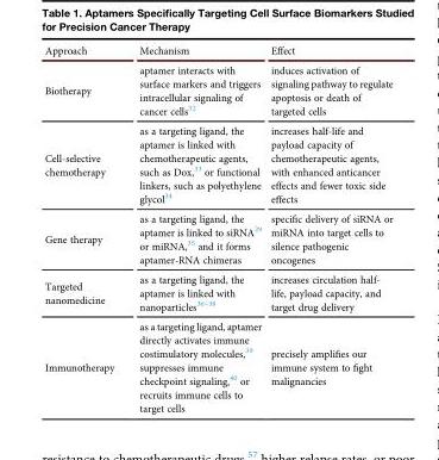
<table><thead><tr><td>Approach</td><td>Mechanism</td><td>Effect</td></tr></thead><tbody><tr><td>Biotherapy</td><td>aptamer interacts with surface markers and triggers intracellular signaling of cancer cells<sup>32</sup></td><td>induces activation of signaling pathway to regulate apoptosis or death of targeted cells</td></tr><tr><td>Cell-selective chemotherapy</td><td>as a targeting ligand, the aptamer is linked with chemotherapeutic agents, such as Dox,<sup>33</sup> or functional linkers, such as polyethylene glycol<sup>34</sup></td><td>increases half-life and payload capacity of chemotherapeutic agents, with enhanced anticancer effects and fewer toxic side effects</td></tr><tr><td>Gene therapy</td><td>as a targeting ligand, the aptamer is linked to siRNA<sup>29</sup> or miRNA,<sup>35</sup> and it forms aptamer-RNA chimeras</td><td>specific delivery of siRNA or miRNA into target cells to silence pathogenic oncogenes</td></tr><tr><td>Targeted nanomedicine</td><td>as a targeting ligand, the aptamer is linked with nanoparticles36–38</td><td>increases circulation half- life, payload capacity, and target drug delivery</td></tr><tr><td>Immunotherapy</td><td>as a targeting ligand, aptamer directly activates immune costimulatory molecules,<sup>39</sup> suppresses immune checkpoint signaling,<sup>40</sup> or recruits immune cells to target cells</td><td>precisely amplifies our immune system to fight malignancies</td></tr></tbody></table>